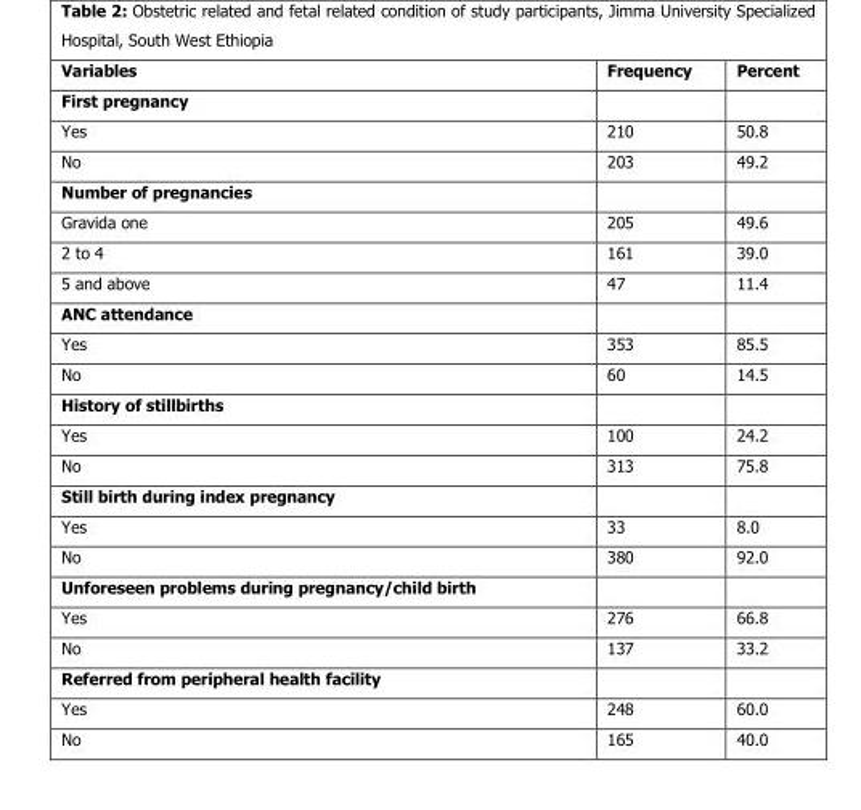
<table><thead><tr><td>Variables</td><td>Frequency</td><td>Percent</td></tr></thead><tbody><tr><td colspan="3">First pregnancy</td></tr><tr><td>Yes</td><td>210</td><td>50.8</td></tr><tr><td>No</td><td>203</td><td>49.2</td></tr><tr><td colspan="3">Number of pregnancies</td></tr><tr><td>Gravida one</td><td>205</td><td>49.6</td></tr><tr><td>2 to 4</td><td>161</td><td>39.0</td></tr><tr><td>5 and above</td><td>47</td><td>11.4</td></tr><tr><td colspan="3">ANC attendance</td></tr><tr><td>Yes</td><td>353</td><td>85.5</td></tr><tr><td>No</td><td>60</td><td>14.5</td></tr><tr><td colspan="3">History of stillbirths</td></tr><tr><td>Yes</td><td>100</td><td>24.2</td></tr><tr><td>No</td><td>313</td><td>75.8</td></tr><tr><td colspan="3">Still birth during index pregnancy</td></tr><tr><td>Yes</td><td>33</td><td>8.0</td></tr><tr><td>No</td><td>380</td><td>92.0</td></tr><tr><td colspan="3">Unforeseen problems during pregnancy/child birth</td></tr><tr><td>Yes</td><td>276</td><td>66.8</td></tr><tr><td>No</td><td>137</td><td>33.2</td></tr><tr><td colspan="3">Referred from peripheral health facility</td></tr><tr><td>Yes</td><td>248</td><td>60.0</td></tr><tr><td>No</td><td>165</td><td>40.0</td></tr></tbody></table>